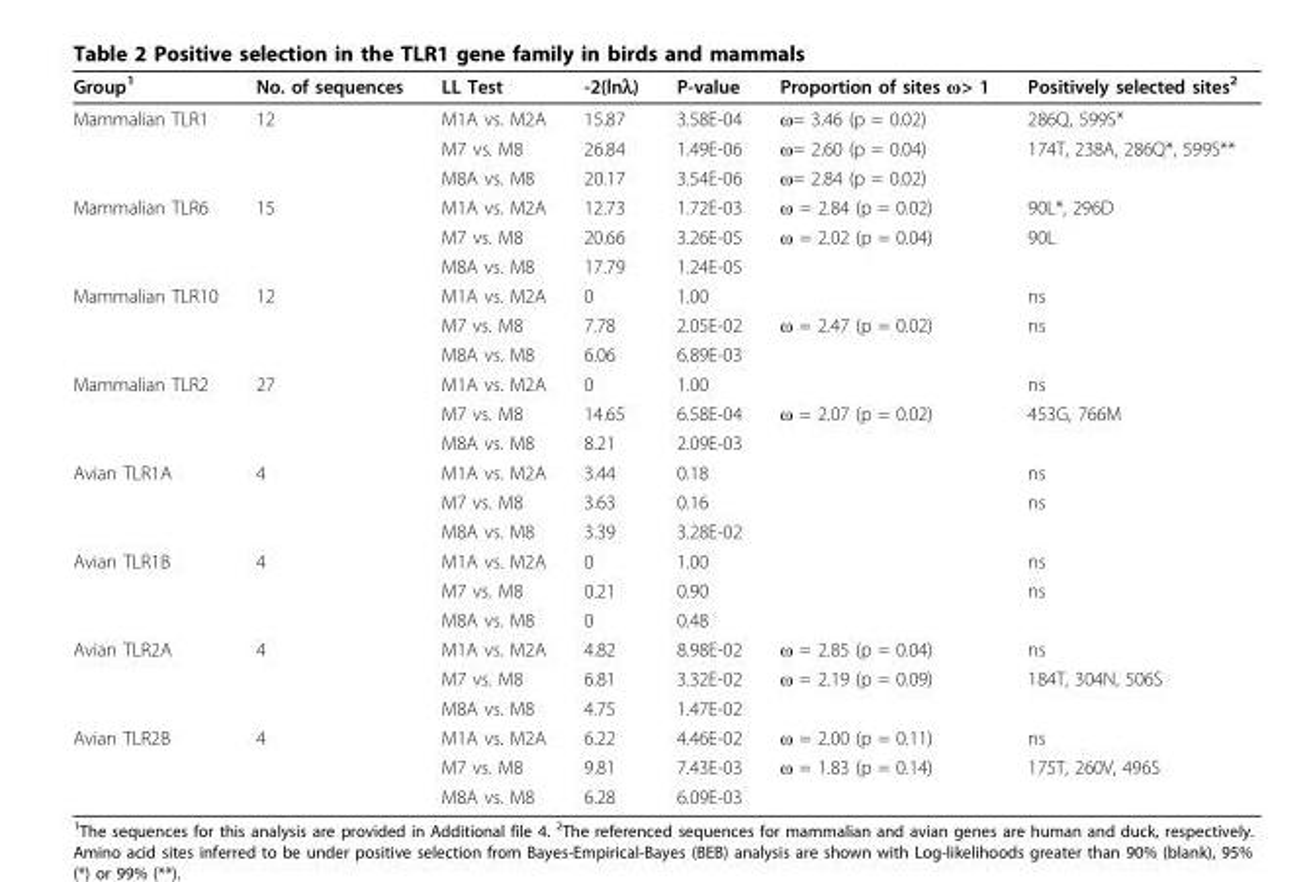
<table><thead><tr><td>Group<sup>1</sup></td><td>No. of sequences</td><td>LL Test</td><td>-2(lnλ)</td><td>P-value</td><td>Proportion of sites ω&gt; 1</td><td>Positively selected sites<sup>2</sup></td></tr></thead><tbody><tr><td rowspan="3">Mammalian TLR1</td><td>12</td><td>M1A vs. M2A</td><td>15.87</td><td>3.58E-04</td><td>ω= 3.46 (p = 0.02)</td><td>286Q, 599S*</td></tr><tr><td></td><td>M7 vs. M8</td><td>26.84</td><td>1.49E-06</td><td>ω= 2.60 (p = 0.04)</td><td>174T, 238A, 286Q*, 599S**</td></tr><tr><td></td><td>M8A vs. M8</td><td>20.17</td><td>3.54E-06</td><td>ω= 2.84 (p = 0.02)</td><td></td></tr><tr><td rowspan="3">Mammalian TLR6</td><td>15</td><td>M1A vs. M2A</td><td>12.73</td><td>1.72E-03</td><td>ω = 2.84 (p = 0.02)</td><td>90L*, 296D</td></tr><tr><td></td><td>M7 vs. M8</td><td>20.66</td><td>3.26E-05</td><td>ω = 2.02 (p = 0.04)</td><td>90L</td></tr><tr><td></td><td>M8A vs. M8</td><td>17.79</td><td>1.24E-05</td><td></td><td></td></tr><tr><td rowspan="3">Mammalian TLR10</td><td>12</td><td>M1A vs. M2A</td><td>0</td><td>1.00</td><td></td><td>ns</td></tr><tr><td></td><td>M7 vs. M8</td><td>7.78</td><td>2.05E-02</td><td>ω = 2.47 (p = 0.02)</td><td>ns</td></tr><tr><td></td><td>M8A vs. M8</td><td>6.06</td><td>6.89E-03</td><td></td><td></td></tr><tr><td rowspan="3">Mammalian TLR2</td><td>27</td><td>M1A vs. M2A</td><td>0</td><td>1.00</td><td></td><td>ns</td></tr><tr><td></td><td>M7 vs. M8</td><td>14.65</td><td>6.58E-04</td><td>ω = 2.07 (p = 0.02)</td><td>453G, 766M</td></tr><tr><td></td><td>M8A vs. M8</td><td>8.21</td><td>2.09E-03</td><td></td><td></td></tr><tr><td rowspan="3">Avian TLR1A</td><td>4</td><td>M1A vs. M2A</td><td>3.44</td><td>0.18</td><td></td><td>ns</td></tr><tr><td></td><td>M7 vs. M8</td><td>3.63</td><td>0.16</td><td></td><td>ns</td></tr><tr><td></td><td>M8A vs. M8</td><td>3.39</td><td>3.28E-02</td><td></td><td></td></tr><tr><td rowspan="3">Avian TLR1B</td><td>4</td><td>M1A vs. M2A</td><td>0</td><td>1.00</td><td></td><td>ns</td></tr><tr><td></td><td>M7 vs. M8</td><td>0.21</td><td>0.90</td><td></td><td>ns</td></tr><tr><td></td><td>M8A vs. M8</td><td>0</td><td>0.48</td><td></td><td></td></tr><tr><td rowspan="3">Avian TLR2A</td><td>4</td><td>M1A vs. M2A</td><td>4.82</td><td>8.98E-02</td><td>ω = 2.85 (p = 0.04)</td><td>ns</td></tr><tr><td></td><td>M7 vs. M8</td><td>6.81</td><td>3.32E-02</td><td>ω = 2.19 (p = 0.09)</td><td>184T, 304N, 506S</td></tr><tr><td></td><td>M8A vs. M8</td><td>4.75</td><td>1.47E-02</td><td></td><td></td></tr><tr><td rowspan="3">Avian TLR2B</td><td>4</td><td>M1A vs. M2A</td><td>6.22</td><td>4.46E-02</td><td>ω = 2.00 (p = 0.11)</td><td>ns</td></tr><tr><td></td><td>M7 vs. M8</td><td>9.81</td><td>7.43E-03</td><td>ω = 1.83 (p = 0.14)</td><td>175T, 260V, 496S</td></tr><tr><td></td><td>M8A vs. M8</td><td>6.28</td><td>6.09E-03</td><td></td><td></td></tr></tbody></table>